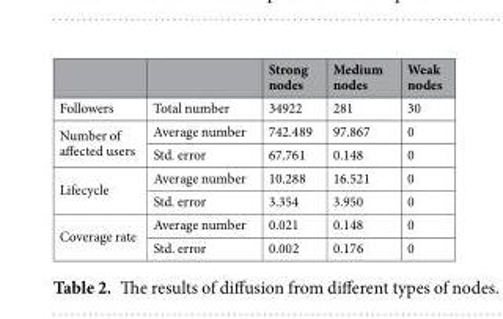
<table><thead><tr><td></td><td></td><td>Strong nodes</td><td>Medium nodes</td><td>Weak nodes</td></tr></thead><tbody><tr><td>Followers</td><td>Total number</td><td>34922</td><td>281</td><td>30</td></tr><tr><td rowspan="2">Number of affected users</td><td>Average number</td><td>742.489</td><td>97.867</td><td>0</td></tr><tr><td>Std. error</td><td>67.761</td><td>0.148</td><td>0</td></tr><tr><td rowspan="2">Lifecycle</td><td>Average number</td><td>10.288</td><td>16.521</td><td>0</td></tr><tr><td>Std. error</td><td>3.354</td><td>3.950</td><td>0</td></tr><tr><td rowspan="2">Coverage rate</td><td>Average number</td><td>0.021</td><td>0.148</td><td>0</td></tr><tr><td>Std. error</td><td>0.002</td><td>0.176</td><td>0</td></tr></tbody></table>